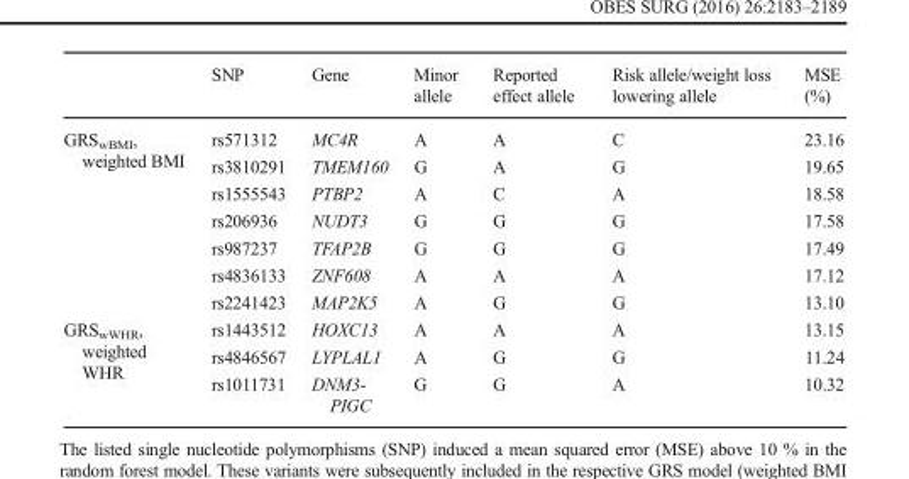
<table><thead><tr><td></td><td>SNP</td><td>Gene</td><td>Minor allele</td><td>Reported effect allele</td><td>Risk allele/weight loss lowering allele</td><td>MSE (%)</td></tr></thead><tbody><tr><td rowspan="7">GRS<sub>wBMI</sub>, weighted BMI</td><td>rs571312</td><td>MC4R</td><td>A</td><td>A</td><td>C</td><td>23.16</td></tr><tr><td>rs3810291</td><td>TMEM160</td><td>G</td><td>A</td><td>G</td><td>19.65</td></tr><tr><td>rs1555543</td><td>PTBP2</td><td>A</td><td>C</td><td>A</td><td>18.58</td></tr><tr><td>rs206936</td><td>NUDT3</td><td>G</td><td>G</td><td>G</td><td>17.58</td></tr><tr><td>rs987237</td><td>TFAP2B</td><td>G</td><td>G</td><td>G</td><td>17.49</td></tr><tr><td>rs4836133</td><td>ZNF608</td><td>A</td><td>A</td><td>A</td><td>17.12</td></tr><tr><td>rs2241423</td><td>MAP2K5</td><td>A</td><td>G</td><td>G</td><td>13.10</td></tr><tr><td rowspan="3">GRS<sub>wWHR</sub>, weighted WHR</td><td>rs1443512</td><td>HOXC13</td><td>A</td><td>A</td><td>A</td><td>13.15</td></tr><tr><td>rs4846567</td><td>LYPLAL1</td><td>A</td><td>G</td><td>G</td><td>11.24</td></tr><tr><td>rs1011731</td><td>DNM3- PIGC</td><td>G</td><td>G</td><td>A</td><td>10.32</td></tr></tbody></table>